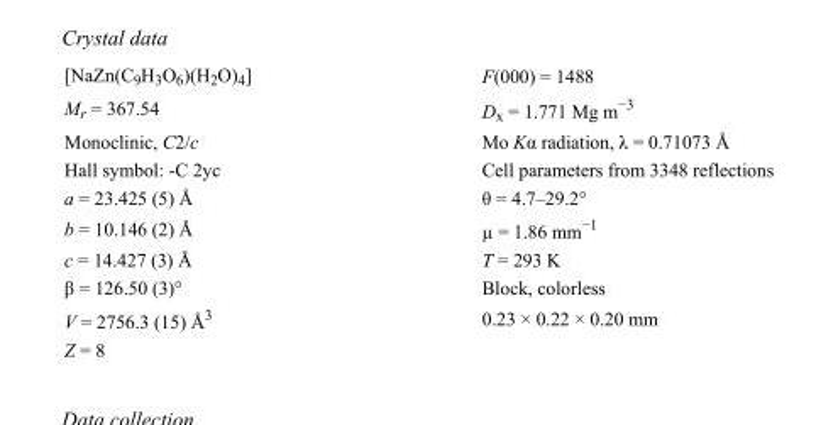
<table><tbody><tr><td>[NaZn(C<sub>9</sub>H<sub>3</sub>O<sub>6</sub>)(H<sub>2</sub>O)<sub>4</sub>]</td><td>F(000) = 1488</td></tr><tr><td>M<sub>r</sub> = 367.54</td><td>D<sub>x</sub> = 1.771 Mg m<sup>−3</sup></td></tr><tr><td>Monoclinic, C2/c</td><td>Mo Kα radiation, λ = 0.71073 Å</td></tr><tr><td>Hall symbol: -C 2yc</td><td>Cell parameters from 3348 reflections</td></tr><tr><td>a = 23.425 (5) Å</td><td>θ = 4.7–29.2°</td></tr><tr><td>b = 10.146 (2) Å</td><td>µ = 1.86 mm<sup>−1</sup></td></tr><tr><td>c = 14.427 (3) Å</td><td>T = 293 K</td></tr><tr><td>β = 126.50 (3)°</td><td>Block, colorless</td></tr><tr><td>V = 2756.3 (15) Å<sup>3</sup></td><td>0.23 × 0.22 × 0.20 mm</td></tr><tr><td>Z = 8</td><td></td></tr></tbody></table>